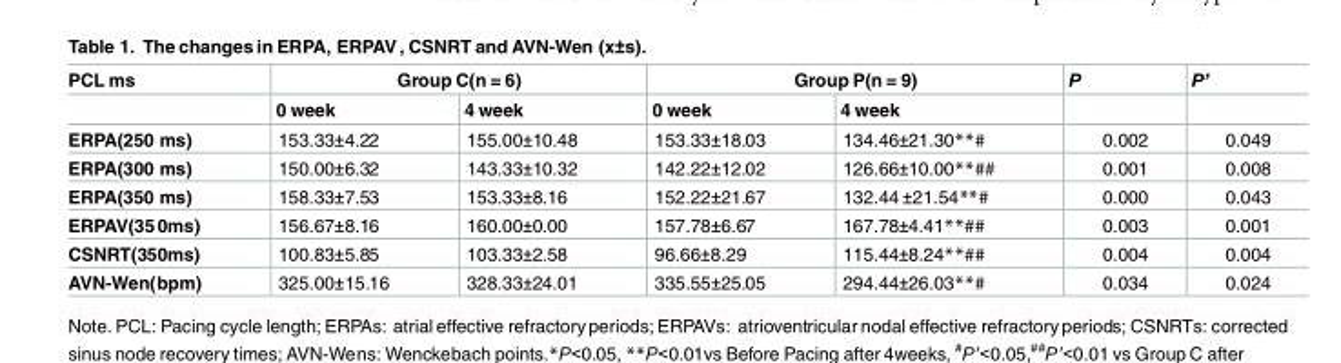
<table><thead><tr><td rowspan="2">PCL ms</td><td colspan="2">Group C(n = 6)</td><td colspan="2">Group P(n = 9)</td><td rowspan="2">P</td><td rowspan="2">P’</td></tr><tr><td>0 week</td><td>4 week</td><td>0 week</td><td>4 week</td></tr></thead><tbody><tr><td>ERPA(250 ms)</td><td>153.33±4.22</td><td>155.00±10.48</td><td>153.33±18.03</td><td>134.46±21.30**#</td><td>0.002</td><td>0.049</td></tr><tr><td>ERPA(300 ms)</td><td>150.00±6.32</td><td>143.33±10.32</td><td>142.22±12.02</td><td>126.66±10.00**##</td><td>0.001</td><td>0.008</td></tr><tr><td>ERPA(350 ms)</td><td>158.33±7.53</td><td>153.33±8.16</td><td>152.22±21.67</td><td>132.44 ±21.54**#</td><td>0.000</td><td>0.043</td></tr><tr><td>ERPAV(350ms)</td><td>156.67±8.16</td><td>160.00±0.00</td><td>157.78±6.67</td><td>167.78±4.41**##</td><td>0.003</td><td>0.001</td></tr><tr><td>CSNRT(350ms)</td><td>100.83±5.85</td><td>103.33±2.58</td><td>96.66±8.29</td><td>115.44±8.24**##</td><td>0.004</td><td>0.004</td></tr><tr><td>AVN-Wen(bpm)</td><td>325.00±15.16</td><td>328.33±24.01</td><td>335.55±25.05</td><td>294.44±26.03**#</td><td>0.034</td><td>0.024</td></tr></tbody></table>